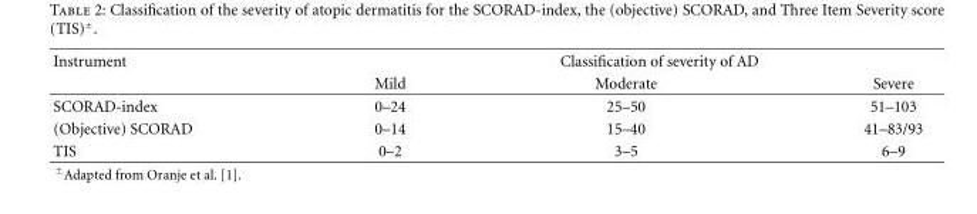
<table><thead><tr><td rowspan="2">Instrument</td><td colspan="3">Classification of severity of AD</td></tr><tr><td>Mild</td><td>Moderate</td><td>Severe</td></tr></thead><tbody><tr><td>SCORAD-index</td><td>0–24</td><td>25–50</td><td>51–103</td></tr><tr><td>(Objective) SCORAD</td><td>0–14</td><td>15–40</td><td>41–83/93</td></tr><tr><td>TIS</td><td>0–2</td><td>3–5</td><td>6–9</td></tr></tbody></table>